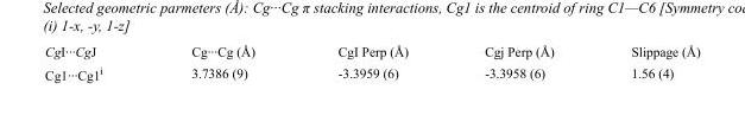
<table><tbody><tr><td>CgI···CgJ</td><td>Cg···Cg (Å)</td><td>CgI Perp (Å)</td><td>Cgj Perp (Å)</td><td>Slippage (Å)</td></tr><tr><td>Cg1···Cg1<sup>i</sup></td><td>3.7386 (9)</td><td>-3.3959 (6)</td><td>-3.3958 (6)</td><td>1.56 (4)</td></tr></tbody></table>